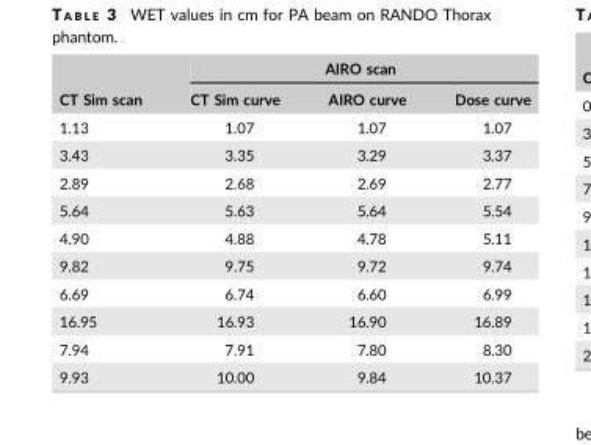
<table><thead><tr><td rowspan="2">CT Sim scan</td><td colspan="3">AIRO scan</td></tr><tr><td>CT Sim curve</td><td>AIRO curve</td><td>Dose curve</td></tr></thead><tbody><tr><td>1.13</td><td>1.07</td><td>1.07</td><td>1.07</td></tr><tr><td>3.43</td><td>3.35</td><td>3.29</td><td>3.37</td></tr><tr><td>2.89</td><td>2.68</td><td>2.69</td><td>2.77</td></tr><tr><td>5.64</td><td>5.63</td><td>5.64</td><td>5.54</td></tr><tr><td>4.90</td><td>4.88</td><td>4.78</td><td>5.11</td></tr><tr><td>9.82</td><td>9.75</td><td>9.72</td><td>9.74</td></tr><tr><td>6.69</td><td>6.74</td><td>6.60</td><td>6.99</td></tr><tr><td>16.95</td><td>16.93</td><td>16.90</td><td>16.89</td></tr><tr><td>7.94</td><td>7.91</td><td>7.80</td><td>8.30</td></tr><tr><td>9.93</td><td>10.00</td><td>9.84</td><td>10.37</td></tr></tbody></table>